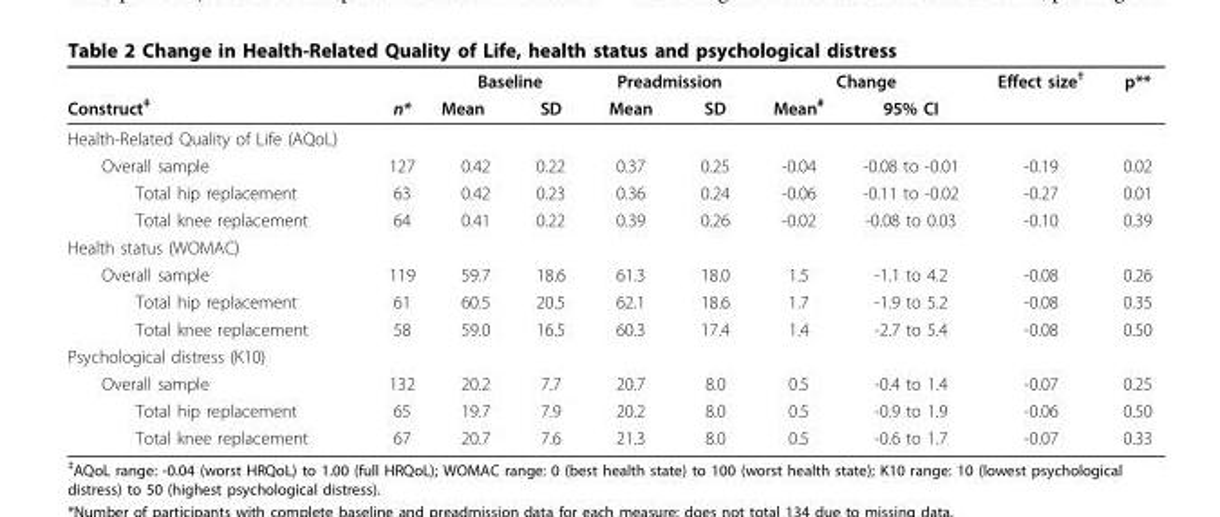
<table><thead><tr><td rowspan="2">Construct<sup>‡</sup></td><td rowspan="2">n*</td><td colspan="2">Baseline</td><td colspan="2">Preadmission</td><td colspan="2">Change</td><td rowspan="2">Effect size<sup>†</sup></td><td rowspan="2">p**</td></tr><tr><td>Mean</td><td>SD</td><td>Mean</td><td>SD</td><td>Mean<sup>#</sup></td><td>95% CI</td></tr></thead><tbody><tr><td colspan="10">Health-Related Quality of Life (AQoL)</td></tr><tr><td>Overall sample</td><td>127</td><td>0.42</td><td>0.22</td><td>0.37</td><td>0.25</td><td>-0.04</td><td>-0.08 to -0.01</td><td>-0.19</td><td>0.02</td></tr><tr><td>Total hip replacement</td><td>63</td><td>0.42</td><td>0.23</td><td>0.36</td><td>0.24</td><td>-0.06</td><td>-0.11 to -0.02</td><td>-0.27</td><td>0.01</td></tr><tr><td>Total knee replacement</td><td>64</td><td>0.41</td><td>0.22</td><td>0.39</td><td>0.26</td><td>-0.02</td><td>-0.08 to 0.03</td><td>-0.10</td><td>0.39</td></tr><tr><td colspan="10">Health status (WOMAC)</td></tr><tr><td>Overall sample</td><td>119</td><td>59.7</td><td>18.6</td><td>61.3</td><td>18.0</td><td>1.5</td><td>-1.1 to 4.2</td><td>-0.08</td><td>0.26</td></tr><tr><td>Total hip replacement</td><td>61</td><td>60.5</td><td>20.5</td><td>62.1</td><td>18.6</td><td>1.7</td><td>-1.9 to 5.2</td><td>-0.08</td><td>0.35</td></tr><tr><td>Total knee replacement</td><td>58</td><td>59.0</td><td>16.5</td><td>60.3</td><td>17.4</td><td>1.4</td><td>-2.7 to 5.4</td><td>-0.08</td><td>0.50</td></tr><tr><td colspan="10">Psychological distress (K10)</td></tr><tr><td>Overall sample</td><td>132</td><td>20.2</td><td>7.7</td><td>20.7</td><td>8.0</td><td>0.5</td><td>-0.4 to 1.4</td><td>-0.07</td><td>0.25</td></tr><tr><td>Total hip replacement</td><td>65</td><td>19.7</td><td>7.9</td><td>20.2</td><td>8.0</td><td>0.5</td><td>-0.9 to 1.9</td><td>-0.06</td><td>0.50</td></tr><tr><td>Total knee replacement</td><td>67</td><td>20.7</td><td>7.6</td><td>21.3</td><td>8.0</td><td>0.5</td><td>-0.6 to 1.7</td><td>-0.07</td><td>0.33</td></tr></tbody></table>